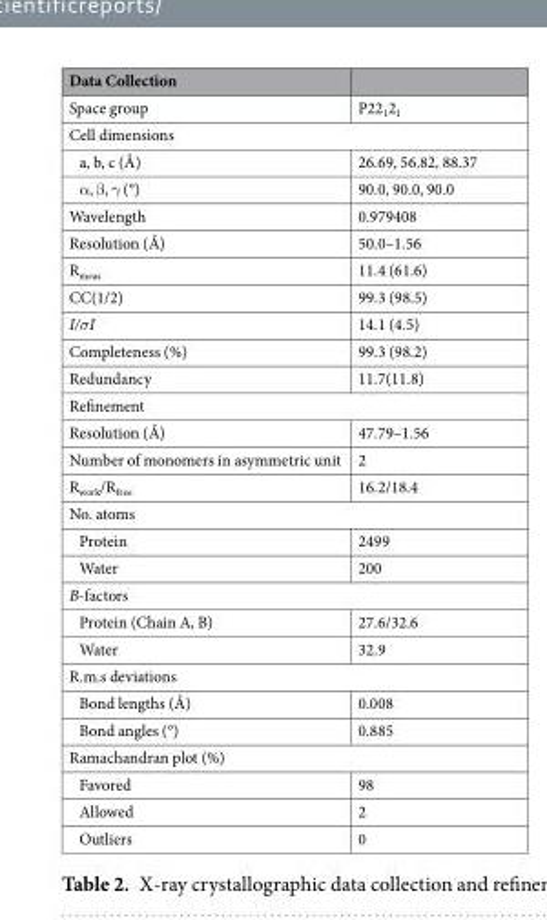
<table><thead><tr><td>Data Collection</td><td></td></tr></thead><tbody><tr><td>Space group</td><td>P22<sub>1</sub>2<sub>1</sub></td></tr><tr><td colspan="2">Cell dimensions</td></tr><tr><td>a, b, c (Å)</td><td>26.69, 56.82, 88.37</td></tr><tr><td>α, β, γ (°)</td><td>90.0, 90.0, 90.0</td></tr><tr><td>Wavelength</td><td>0.979408</td></tr><tr><td>Resolution (Å)</td><td>50.0–1.56</td></tr><tr><td>R<sub>meas</sub></td><td>11.4 (61.6)</td></tr><tr><td>CC(1/2)</td><td>99.3 (98.5)</td></tr><tr><td>I/σI</td><td>14.1 (4.5)</td></tr><tr><td>Completeness (%)</td><td>99.3 (98.2)</td></tr><tr><td>Redundancy</td><td>11.7(11.8)</td></tr><tr><td colspan="2">Refinement</td></tr><tr><td>Resolution (Å)</td><td>47.79–1.56</td></tr><tr><td>Number of monomers in asymmetric unit</td><td>2</td></tr><tr><td>R<sub>work</sub>/R<sub>free</sub></td><td>16.2/18.4</td></tr><tr><td colspan="2">No. atoms</td></tr><tr><td>Protein</td><td>2499</td></tr><tr><td>Water</td><td>200</td></tr><tr><td colspan="2">B-factors</td></tr><tr><td>Protein (Chain A, B)</td><td>27.6/32.6</td></tr><tr><td>Water</td><td>32.9</td></tr><tr><td colspan="2">R.m.s deviations</td></tr><tr><td>Bond lengths (Å)</td><td>0.008</td></tr><tr><td>Bond angles (°)</td><td>0.885</td></tr><tr><td colspan="2">Ramachandran plot (%)</td></tr><tr><td>Favored</td><td>98</td></tr><tr><td>Allowed</td><td>2</td></tr><tr><td>Outliers</td><td>0</td></tr></tbody></table>